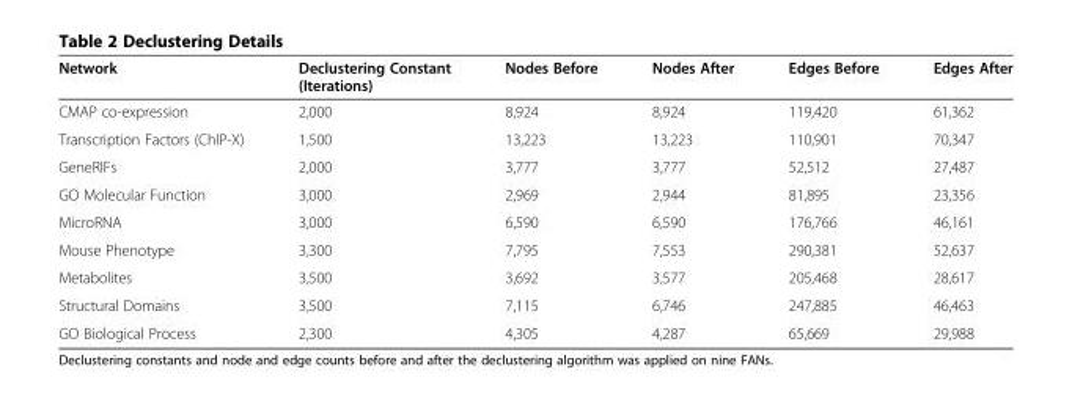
<table><thead><tr><td>Network</td><td>Declustering Constant (Iterations)</td><td>Nodes Before</td><td>Nodes After</td><td>Edges Before</td><td>Edges After</td></tr></thead><tbody><tr><td>CMAP co-expression</td><td>2,000</td><td>8,924</td><td>8,924</td><td>119,420</td><td>61,362</td></tr><tr><td>Transcription Factors (ChIP-X)</td><td>1,500</td><td>13,223</td><td>13,223</td><td>110,901</td><td>70,347</td></tr><tr><td>GeneRIFs</td><td>2,000</td><td>3,777</td><td>3,777</td><td>52,512</td><td>27,487</td></tr><tr><td>GO Molecular Function</td><td>3,000</td><td>2,969</td><td>2,944</td><td>81,895</td><td>23,356</td></tr><tr><td>MicroRNA</td><td>3,000</td><td>6,590</td><td>6,590</td><td>176,766</td><td>46,161</td></tr><tr><td>Mouse Phenotype</td><td>3,300</td><td>7,795</td><td>7,553</td><td>290,381</td><td>52,637</td></tr><tr><td>Metabolites</td><td>3,500</td><td>3,692</td><td>3,577</td><td>205,468</td><td>28,617</td></tr><tr><td>Structural Domains</td><td>3,500</td><td>7,115</td><td>6,746</td><td>247,885</td><td>46,463</td></tr><tr><td>GO Biological Process</td><td>2,300</td><td>4,305</td><td>4,287</td><td>65,669</td><td>29,988</td></tr></tbody></table>